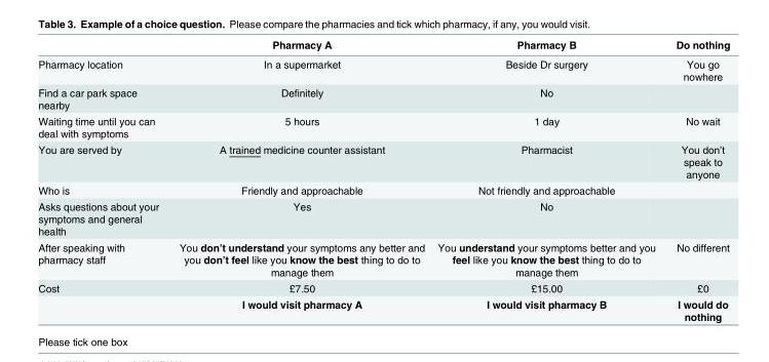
<table><thead><tr><td></td><td>Pharmacy A</td><td>Pharmacy B</td><td>Do nothing</td></tr></thead><tbody><tr><td>Pharmacy location</td><td>In a supermarket</td><td>Beside Dr surgery</td><td>You go nowhere</td></tr><tr><td>Find a car park space nearby</td><td>Definitely</td><td>No</td><td></td></tr><tr><td>Waiting time until you can deal with symptoms</td><td>5 hours</td><td>1 day</td><td>No wait</td></tr><tr><td>You are served by</td><td>A trained medicine counter assistant</td><td>Pharmacist</td><td>You don’t speak to anyone</td></tr><tr><td>Who is</td><td>Friendly and approachable</td><td>Not friendly and approachable</td><td></td></tr><tr><td>Asks questions about your symptoms and general health</td><td>Yes</td><td>No</td><td></td></tr><tr><td>After speaking with pharmacy staff</td><td>You don’t understand your symptoms any better and you don’t feel like you know the best thing to do to manage them</td><td>You understand your symptoms better and you feel like you know the best thing to do to manage them</td><td>No different</td></tr><tr><td rowspan="2">Cost</td><td>£7.50</td><td>£15.00</td><td>£0</td></tr><tr><td>I would visit pharmacy A</td><td>I would visit pharmacy B</td><td>I would do nothing</td></tr></tbody></table>